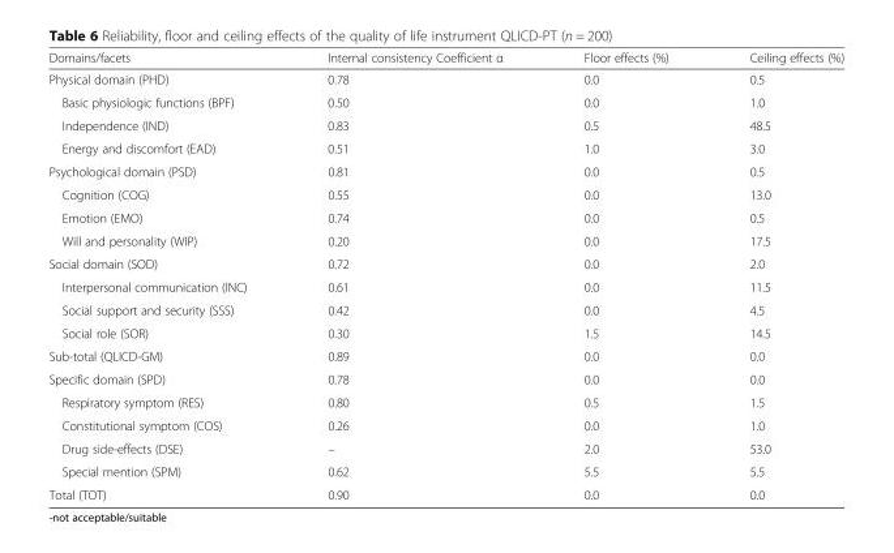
<table><thead><tr><td>Domains/facets</td><td>Internal consistency Coefficient α</td><td>Floor effects (%)</td><td>Ceiling effects (%)</td></tr></thead><tbody><tr><td>Physical domain (PHD)</td><td>0.78</td><td>0.0</td><td>0.5</td></tr><tr><td>Basic physiologic functions (BPF)</td><td>0.50</td><td>0.0</td><td>1.0</td></tr><tr><td>Independence (IND)</td><td>0.83</td><td>0.5</td><td>48.5</td></tr><tr><td>Energy and discomfort (EAD)</td><td>0.51</td><td>1.0</td><td>3.0</td></tr><tr><td>Psychological domain (PSD)</td><td>0.81</td><td>0.0</td><td>0.5</td></tr><tr><td>Cognition (COG)</td><td>0.55</td><td>0.0</td><td>13.0</td></tr><tr><td>Emotion (EMO)</td><td>0.74</td><td>0.0</td><td>0.5</td></tr><tr><td>Will and personality (WIP)</td><td>0.20</td><td>0.0</td><td>17.5</td></tr><tr><td>Social domain (SOD)</td><td>0.72</td><td>0.0</td><td>2.0</td></tr><tr><td>Interpersonal communication (INC)</td><td>0.61</td><td>0.0</td><td>11.5</td></tr><tr><td>Social support and security (SSS)</td><td>0.42</td><td>0.0</td><td>4.5</td></tr><tr><td>Social role (SOR)</td><td>0.30</td><td>1.5</td><td>14.5</td></tr><tr><td>Sub-total (QLICD-GM)</td><td>0.89</td><td>0.0</td><td>0.0</td></tr><tr><td>Specific domain (SPD)</td><td>0.78</td><td>0.0</td><td>0.0</td></tr><tr><td>Respiratory symptom (RES)</td><td>0.80</td><td>0.5</td><td>1.5</td></tr><tr><td>Constitutional symptom (COS)</td><td>0.26</td><td>0.0</td><td>1.0</td></tr><tr><td>Drug side-effects (DSE)</td><td>–</td><td>2.0</td><td>53.0</td></tr><tr><td>Special mention (SPM)</td><td>0.62</td><td>5.5</td><td>5.5</td></tr><tr><td>Total (TOT)</td><td>0.90</td><td>0.0</td><td>0.0</td></tr></tbody></table>